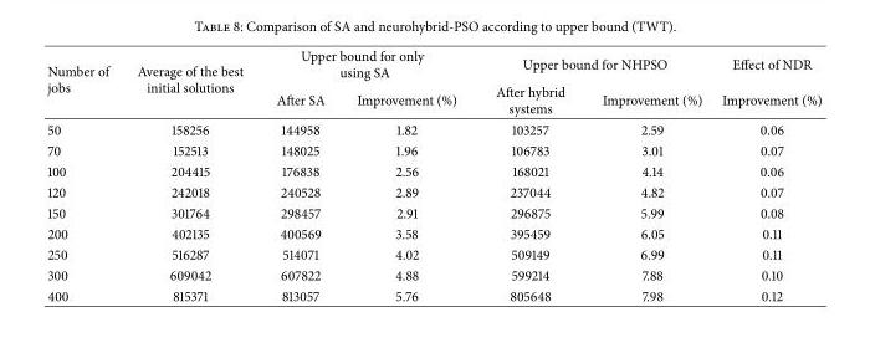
<table><thead><tr><td rowspan="2">Number of jobs</td><td rowspan="2">Average of the best initial solutions</td><td colspan="2">Upper bound for only using SA</td><td colspan="2">Upper bound for NHPSO</td><td rowspan="2">Effect of NDR Improvement (%)</td></tr><tr><td>After SA</td><td>Improvement (%)</td><td>After hybrid systems</td><td>Improvement (%)</td></tr></thead><tbody><tr><td>50</td><td>158256</td><td>144958</td><td>1.82</td><td>103257</td><td>2.59</td><td>0.06</td></tr><tr><td>70</td><td>152513</td><td>148025</td><td>1.96</td><td>106783</td><td>3.01</td><td>0.07</td></tr><tr><td>100</td><td>204415</td><td>176838</td><td>2.56</td><td>168021</td><td>4.14</td><td>0.06</td></tr><tr><td>120</td><td>242018</td><td>240528</td><td>2.89</td><td>237044</td><td>4.82</td><td>0.07</td></tr><tr><td>150</td><td>301764</td><td>298457</td><td>2.91</td><td>296875</td><td>5.99</td><td>0.08</td></tr><tr><td>200</td><td>402135</td><td>400569</td><td>3.58</td><td>395459</td><td>6.05</td><td>0.11</td></tr><tr><td>250</td><td>516287</td><td>514071</td><td>4.02</td><td>509149</td><td>6.99</td><td>0.11</td></tr><tr><td>300</td><td>609042</td><td>607822</td><td>4.88</td><td>599214</td><td>7.88</td><td>0.10</td></tr><tr><td>400</td><td>815371</td><td>813057</td><td>5.76</td><td>805648</td><td>7.98</td><td>0.12</td></tr></tbody></table>